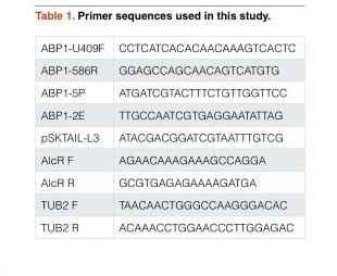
<table><tbody><tr><td>ABP1-U409F</td><td>CCTCATCACACAACAAAGTCACTC</td></tr><tr><td>ABP1-586R</td><td>GGAGCCAGCAACAGTCATGTG</td></tr><tr><td>ABP1-5P</td><td>ATGATCGTACTTTCTGTTGGTTCC</td></tr><tr><td>ABP1-2E</td><td>TTGCCAATCGTGAGGAATATTAG</td></tr><tr><td>pSKTAIL-L3</td><td>ATACGACGGATCGTAATTTGTCG</td></tr><tr><td>AlcR F</td><td>AGAACAAAGAAAGCCAGGA</td></tr><tr><td>AlcR R</td><td>GCGTGAGAGAAAAGATGA</td></tr><tr><td>TUB2 F</td><td>TAACAACTGGGCCAAGGGACAC</td></tr><tr><td>TUB2 R</td><td>ACAAACCTGGAACCCTTGGAGAC</td></tr></tbody></table>